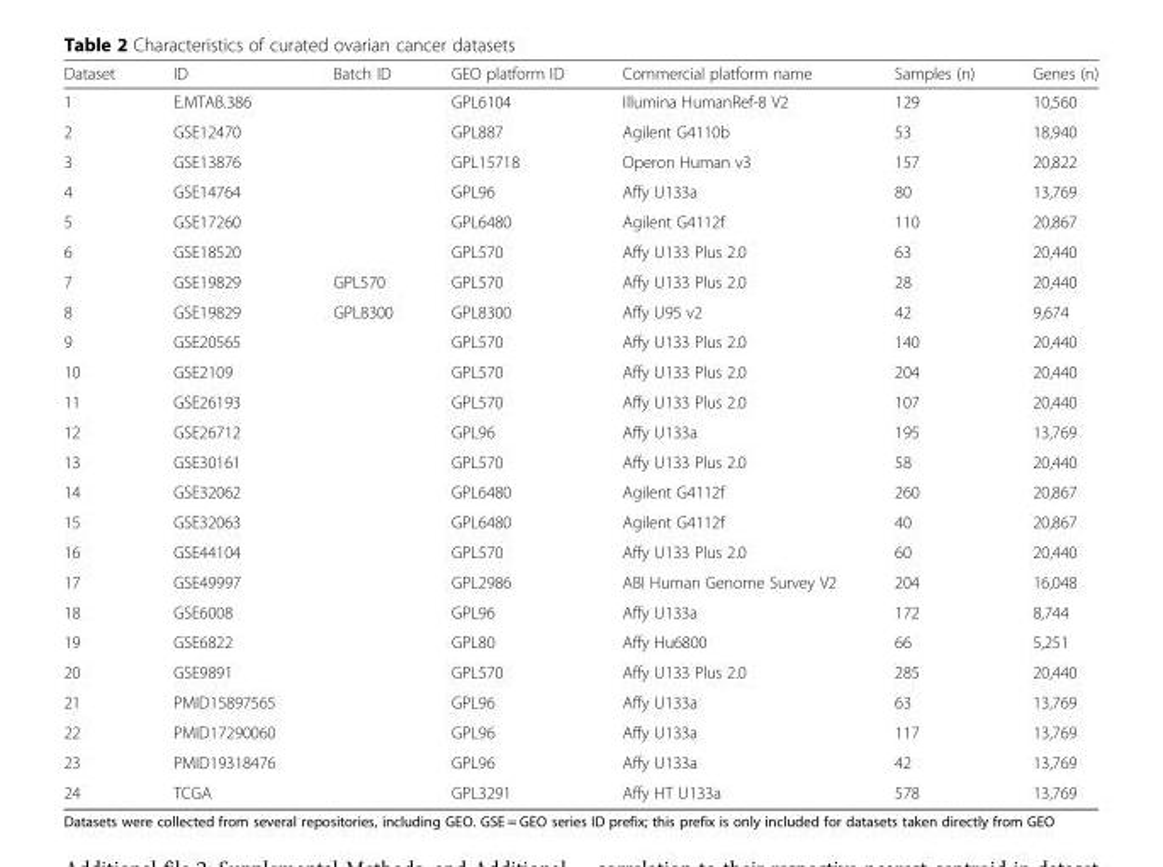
<table><thead><tr><td>Dataset</td><td>ID</td><td>Batch ID</td><td>GEO platform ID</td><td>Commercial platform name</td><td>Samples (n)</td><td>Genes (n)</td></tr></thead><tbody><tr><td>1</td><td>E.MTAB.386</td><td></td><td>GPL6104</td><td>Illumina HumanRef-8 V2</td><td>129</td><td>10,560</td></tr><tr><td>2</td><td>GSE12470</td><td></td><td>GPL887</td><td>Agilent G4110b</td><td>53</td><td>18,940</td></tr><tr><td>3</td><td>GSE13876</td><td></td><td>GPL15718</td><td>Operon Human v3</td><td>157</td><td>20,822</td></tr><tr><td>4</td><td>GSE14764</td><td></td><td>GPL96</td><td>Affy U133a</td><td>80</td><td>13,769</td></tr><tr><td>5</td><td>GSE17260</td><td></td><td>GPL6480</td><td>Agilent G4112f</td><td>110</td><td>20,867</td></tr><tr><td>6</td><td>GSE18520</td><td></td><td>GPL570</td><td>Affy U133 Plus 2.0</td><td>63</td><td>20,440</td></tr><tr><td>7</td><td>GSE19829</td><td>GPL570</td><td>GPL570</td><td>Affy U133 Plus 2.0</td><td>28</td><td>20,440</td></tr><tr><td>8</td><td>GSE19829</td><td>GPL8300</td><td>GPL8300</td><td>Affy U95 v2</td><td>42</td><td>9,674</td></tr><tr><td>9</td><td>GSE20565</td><td></td><td>GPL570</td><td>Affy U133 Plus 2.0</td><td>140</td><td>20,440</td></tr><tr><td>10</td><td>GSE2109</td><td></td><td>GPL570</td><td>Affy U133 Plus 2.0</td><td>204</td><td>20,440</td></tr><tr><td>11</td><td>GSE26193</td><td></td><td>GPL570</td><td>Affy U133 Plus 2.0</td><td>107</td><td>20,440</td></tr><tr><td>12</td><td>GSE26712</td><td></td><td>GPL96</td><td>Affy U133a</td><td>195</td><td>13,769</td></tr><tr><td>13</td><td>GSE30161</td><td></td><td>GPL570</td><td>Affy U133 Plus 2.0</td><td>58</td><td>20,440</td></tr><tr><td>14</td><td>GSE32062</td><td></td><td>GPL6480</td><td>Agilent G4112f</td><td>260</td><td>20,867</td></tr><tr><td>15</td><td>GSE32063</td><td></td><td>GPL6480</td><td>Agilent G4112f</td><td>40</td><td>20,867</td></tr><tr><td>16</td><td>GSE44104</td><td></td><td>GPL570</td><td>Affy U133 Plus 2.0</td><td>60</td><td>20,440</td></tr><tr><td>17</td><td>GSE49997</td><td></td><td>GPL2986</td><td>ABI Human Genome Survey V2</td><td>204</td><td>16,048</td></tr><tr><td>18</td><td>GSE6008</td><td></td><td>GPL96</td><td>Affy U133a</td><td>172</td><td>8,744</td></tr><tr><td>19</td><td>GSE6822</td><td></td><td>GPL80</td><td>Affy Hu6800</td><td>66</td><td>5,251</td></tr><tr><td>20</td><td>GSE9891</td><td></td><td>GPL570</td><td>Affy U133 Plus 2.0</td><td>285</td><td>20,440</td></tr><tr><td>21</td><td>PMID15897565</td><td></td><td>GPL96</td><td>Affy U133a</td><td>63</td><td>13,769</td></tr><tr><td>22</td><td>PMID17290060</td><td></td><td>GPL96</td><td>Affy U133a</td><td>117</td><td>13,769</td></tr><tr><td>23</td><td>PMID19318476</td><td></td><td>GPL96</td><td>Affy U133a</td><td>42</td><td>13,769</td></tr><tr><td>24</td><td>TCGA</td><td></td><td>GPL3291</td><td>Affy HT U133a</td><td>578</td><td>13,769</td></tr></tbody></table>